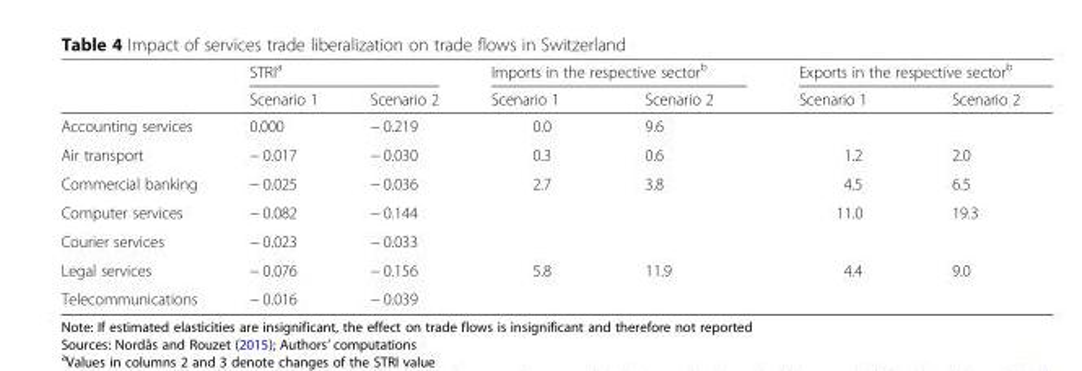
<table><thead><tr><td rowspan="2"></td><td colspan="2">STRI<sup>a</sup></td><td colspan="2">Imports in the respective sector<sup>b</sup></td><td colspan="2">Exports in the respective sector<sup>b</sup></td></tr><tr><td>Scenario 1</td><td>Scenario 2</td><td>Scenario 1</td><td>Scenario 2</td><td>Scenario 1</td><td>Scenario 2</td></tr></thead><tbody><tr><td>Accounting services</td><td>0.000</td><td>− 0.219</td><td>0.0</td><td>9.6</td><td></td><td></td></tr><tr><td>Air transport</td><td>− 0.017</td><td>− 0.030</td><td>0.3</td><td>0.6</td><td>1.2</td><td>2.0</td></tr><tr><td>Commercial banking</td><td>− 0.025</td><td>− 0.036</td><td>2.7</td><td>3.8</td><td>4.5</td><td>6.5</td></tr><tr><td>Computer services</td><td>− 0.082</td><td>− 0.144</td><td></td><td></td><td>11.0</td><td>19.3</td></tr><tr><td>Courier services</td><td>− 0.023</td><td>− 0.033</td><td></td><td></td><td></td><td></td></tr><tr><td>Legal services</td><td>− 0.076</td><td>− 0.156</td><td>5.8</td><td>11.9</td><td>4.4</td><td>9.0</td></tr><tr><td>Telecommunications</td><td>− 0.016</td><td>− 0.039</td><td></td><td></td><td></td><td></td></tr></tbody></table>